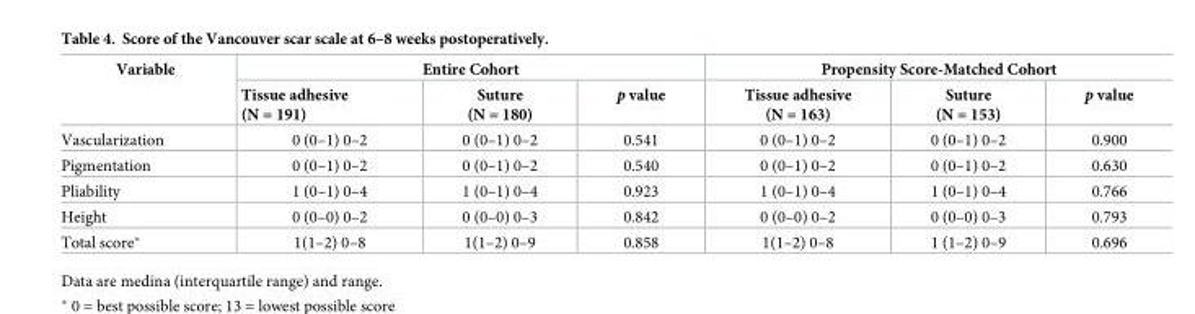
<table><thead><tr><td rowspan="2">Variable</td><td colspan="3">Entire Cohort</td><td colspan="3">Propensity Score-Matched Cohort</td></tr><tr><td>Tissue adhesive (N = 191)</td><td>Suture (N = 180)</td><td>p value</td><td>Tissue adhesive (N = 163)</td><td>Suture (N = 153)</td><td>p value</td></tr></thead><tbody><tr><td>Vascularization</td><td>0 (0–1) 0–2</td><td>0 (0–1) 0–2</td><td>0.541</td><td>0 (0–1) 0–2</td><td>0 (0–1) 0–2</td><td>0.900</td></tr><tr><td>Pigmentation</td><td>0 (0–1) 0–2</td><td>0 (0–1) 0–2</td><td>0.540</td><td>0 (0–1) 0–2</td><td>0 (0–1) 0–2</td><td>0.630</td></tr><tr><td>Pliability</td><td>1 (0–1) 0–4</td><td>1 (0–1) 0–4</td><td>0.923</td><td>1 (0–1) 0–4</td><td>1 (0–1) 0–4</td><td>0.766</td></tr><tr><td>Height</td><td>0 (0–0) 0–2</td><td>0 (0–0) 0–3</td><td>0.842</td><td>0 (0–0) 0–2</td><td>0 (0–0) 0–3</td><td>0.793</td></tr><tr><td>Total score*</td><td>1(1–2) 0–8</td><td>1(1–2) 0–9</td><td>0.858</td><td>1(1–2) 0–8</td><td>1 (1–2) 0–9</td><td>0.696</td></tr></tbody></table>